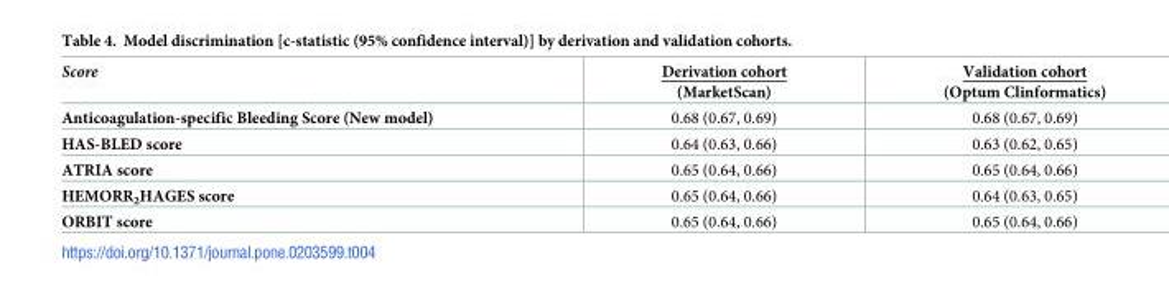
<table><thead><tr><td>Score</td><td>Derivation cohort (MarketScan)</td><td>Validation cohort (Optum Clinformatics)</td></tr></thead><tbody><tr><td>Anticoagulation-specific Bleeding Score (New model)</td><td>0.68 (0.67, 0.69)</td><td>0.68 (0.67, 0.69)</td></tr><tr><td>HAS-BLED score</td><td>0.64 (0.63, 0.66)</td><td>0.63 (0.62, 0.65)</td></tr><tr><td>ATRIA score</td><td>0.65 (0.64, 0.66)</td><td>0.65 (0.64, 0.66)</td></tr><tr><td>HEMORR<sub>2</sub>HAGES score</td><td>0.65 (0.64, 0.66)</td><td>0.64 (0.63, 0.65)</td></tr><tr><td>ORBIT score</td><td>0.65 (0.64, 0.66)</td><td>0.65 (0.64, 0.66)</td></tr></tbody></table>